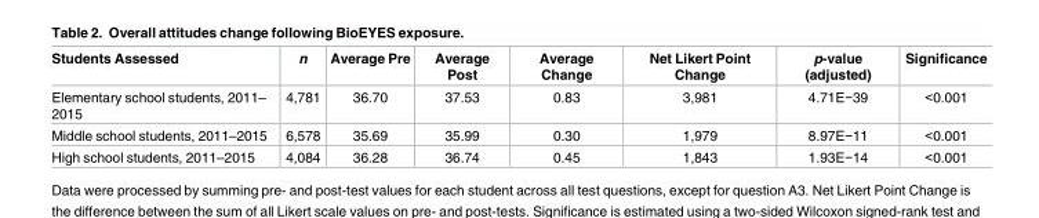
<table><thead><tr><td>Students Assessed</td><td>n</td><td>Average Pre</td><td>Average Post</td><td>Average Change</td><td>Net Likert Point Change</td><td>p-value (adjusted)</td><td>Significance</td></tr></thead><tbody><tr><td>Elementary school students, 2011– 2015</td><td>4,781</td><td>36.70</td><td>37.53</td><td>0.83</td><td>3,981</td><td>4.71E−39</td><td>&lt;0.001</td></tr><tr><td>Middle school students, 2011–2015</td><td>6,578</td><td>35.69</td><td>35.99</td><td>0.30</td><td>1,979</td><td>8.97E−11</td><td>&lt;0.001</td></tr><tr><td>High school students, 2011–2015</td><td>4,084</td><td>36.28</td><td>36.74</td><td>0.45</td><td>1,843</td><td>1.93E−14</td><td>&lt;0.001</td></tr></tbody></table>